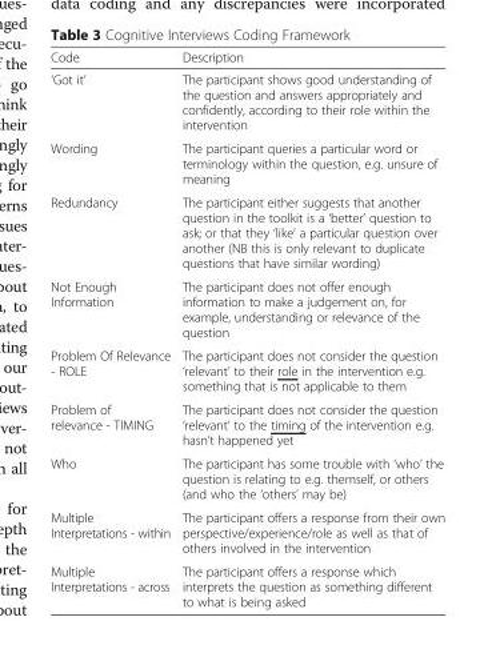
<table><thead><tr><td>Code</td><td>Description</td></tr></thead><tbody><tr><td>‘Got it’</td><td>The participant shows good understanding of the question and answers appropriately and confidently, according to their role within the intervention</td></tr><tr><td>Wording</td><td>The participant queries a particular word or terminology within the question, e.g. unsure of meaning</td></tr><tr><td>Redundancy</td><td>The participant either suggests that another question in the toolkit is a ‘better’ question to ask; or that they ‘like’ a particular question over another (NB this is only relevant to duplicate questions that have similar wording)</td></tr><tr><td>Not Enough Information</td><td>The participant does not offer enough information to make a judgement on, for example, understanding or relevance of the question</td></tr><tr><td>Problem Of Relevance - ROLE</td><td>The participant does not consider the question ‘relevant’ to their role in the intervention e.g. something that is not applicable to them</td></tr><tr><td>Problem of relevance - TIMING</td><td>The participant does not consider the question ‘relevant’ to the timing of the intervention e.g. hasn’t happened yet</td></tr><tr><td>Who</td><td>The participant has some trouble with ‘who’ the question is relating to e.g. themself, or others (and who the ‘others’ may be)</td></tr><tr><td>Multiple Interpretations - within</td><td>The participant offers a response from their own perspective/experience/role as well as that of others involved in the intervention</td></tr><tr><td>Multiple Interpretations - across</td><td>The participant offers a response which interprets the question as something different to what is being asked</td></tr></tbody></table>